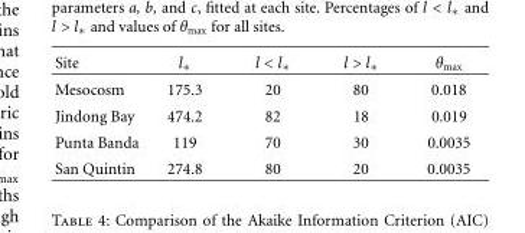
<table><thead><tr><td>Site</td><td>l<sub>∗</sub></td><td>l &lt; l<sub>∗</sub></td><td>l &gt; l<sub>∗</sub></td><td>θ<sub>max</sub></td></tr></thead><tbody><tr><td>Mesocosm</td><td>175.3</td><td>20</td><td>80</td><td>0.018</td></tr><tr><td>Jindong Bay</td><td>474.2</td><td>82</td><td>18</td><td>0.019</td></tr><tr><td>Punta Banda</td><td>119</td><td>70</td><td>30</td><td>0.0035</td></tr><tr><td>San Quintin</td><td>274.8</td><td>80</td><td>20</td><td>0.0035</td></tr></tbody></table>